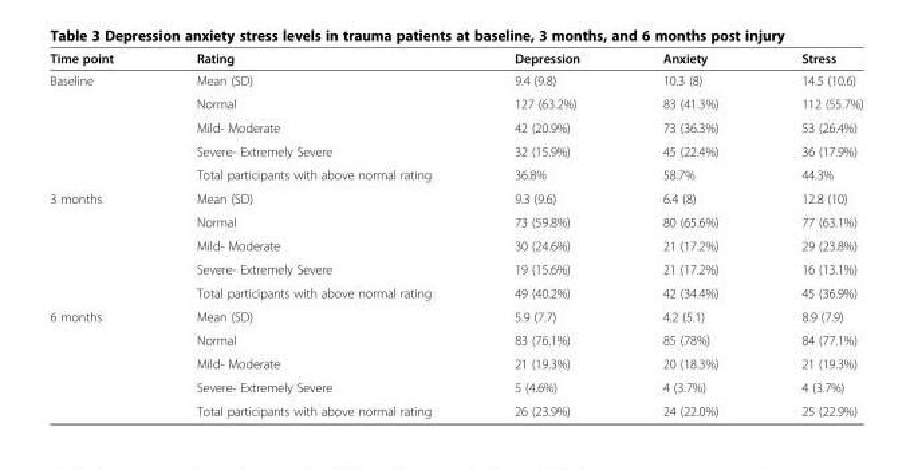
<table><thead><tr><td>Time point</td><td>Rating</td><td>Depression</td><td>Anxiety</td><td>Stress</td></tr></thead><tbody><tr><td rowspan="5">Baseline</td><td>Mean (SD)</td><td>9.4 (9.8)</td><td>10.3 (8)</td><td>14.5 (10.6)</td></tr><tr><td>Normal</td><td>127 (63.2%)</td><td>83 (41.3%)</td><td>112 (55.7%)</td></tr><tr><td>Mild- Moderate</td><td>42 (20.9%)</td><td>73 (36.3%)</td><td>53 (26.4%)</td></tr><tr><td>Severe- Extremely Severe</td><td>32 (15.9%)</td><td>45 (22.4%)</td><td>36 (17.9%)</td></tr><tr><td>Total participants with above normal rating</td><td>36.8%</td><td>58.7%</td><td>44.3%</td></tr><tr><td rowspan="5">3 months</td><td>Mean (SD)</td><td>9.3 (9.6)</td><td>6.4 (8)</td><td>12.8 (10)</td></tr><tr><td>Normal</td><td>73 (59.8%)</td><td>80 (65.6%)</td><td>77 (63.1%)</td></tr><tr><td>Mild- Moderate</td><td>30 (24.6%)</td><td>21 (17.2%)</td><td>29 (23.8%)</td></tr><tr><td>Severe- Extremely Severe</td><td>19 (15.6%)</td><td>21 (17.2%)</td><td>16 (13.1%)</td></tr><tr><td>Total participants with above normal rating</td><td>49 (40.2%)</td><td>42 (34.4%)</td><td>45 (36.9%)</td></tr><tr><td rowspan="5">6 months</td><td>Mean (SD)</td><td>5.9 (7.7)</td><td>4.2 (5.1)</td><td>8.9 (7.9)</td></tr><tr><td>Normal</td><td>83 (76.1%)</td><td>85 (78%)</td><td>84 (77.1%)</td></tr><tr><td>Mild- Moderate</td><td>21 (19.3%)</td><td>20 (18.3%)</td><td>21 (19.3%)</td></tr><tr><td>Severe- Extremely Severe</td><td>5 (4.6%)</td><td>4 (3.7%)</td><td>4 (3.7%)</td></tr><tr><td>Total participants with above normal rating</td><td>26 (23.9%)</td><td>24 (22.0%)</td><td>25 (22.9%)</td></tr></tbody></table>